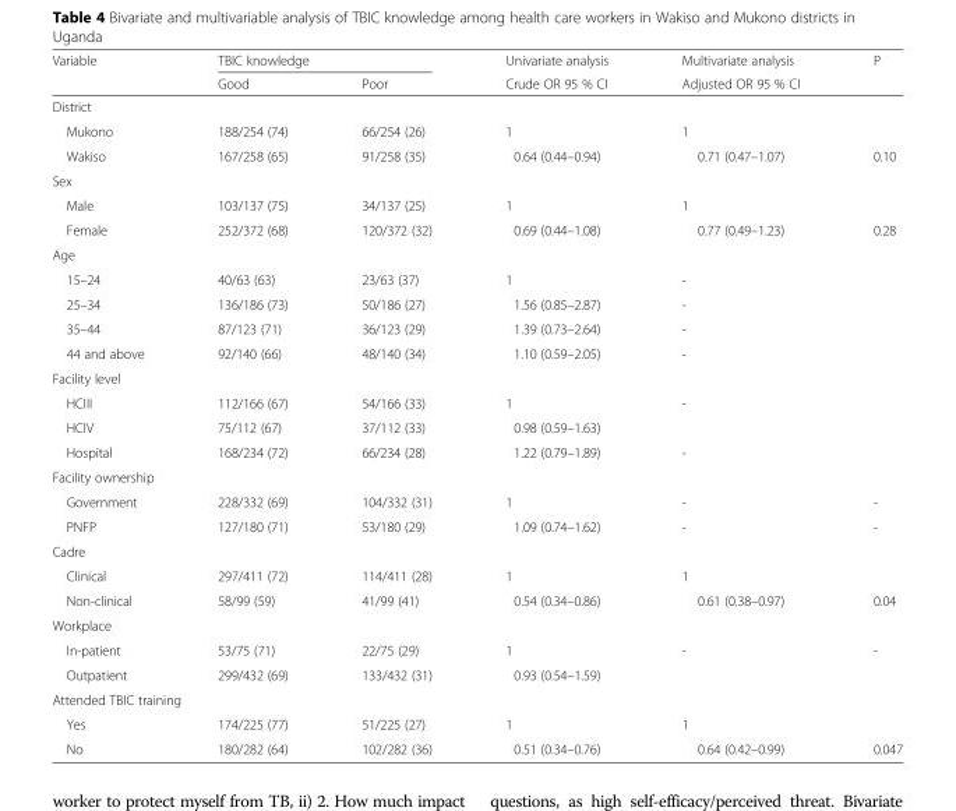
<table><thead><tr><td rowspan="2">Variable</td><td colspan="2">TBIC knowledge</td><td rowspan="2">Univariate analysis Crude OR 95 % CI</td><td rowspan="2">Multivariate analysis Adjusted OR 95 % CI</td><td rowspan="2">P</td></tr><tr><td>Good</td><td>Poor</td></tr></thead><tbody><tr><td colspan="6">District</td></tr><tr><td>Mukono</td><td>188/254 (74)</td><td>66/254 (26)</td><td>1</td><td>1</td><td></td></tr><tr><td>Wakiso</td><td>167/258 (65)</td><td>91/258 (35)</td><td>0.64 (0.44–0.94)</td><td>0.71 (0.47–1.07)</td><td>0.10</td></tr><tr><td colspan="6">Sex</td></tr><tr><td>Male</td><td>103/137 (75)</td><td>34/137 (25)</td><td>1</td><td>1</td><td></td></tr><tr><td>Female</td><td>252/372 (68)</td><td>120/372 (32)</td><td>0.69 (0.44–1.08)</td><td>0.77 (0.49–1.23)</td><td>0.28</td></tr><tr><td colspan="6">Age</td></tr><tr><td>15–24</td><td>40/63 (63)</td><td>23/63 (37)</td><td>1</td><td>-</td><td></td></tr><tr><td>25–34</td><td>136/186 (73)</td><td>50/186 (27)</td><td>1.56 (0.85–2.87)</td><td>-</td><td></td></tr><tr><td>35–44</td><td>87/123 (71)</td><td>36/123 (29)</td><td>1.39 (0.73–2.64)</td><td>-</td><td></td></tr><tr><td>44 and above</td><td>92/140 (66)</td><td>48/140 (34)</td><td>1.10 (0.59–2.05)</td><td>-</td><td></td></tr><tr><td colspan="6">Facility level</td></tr><tr><td>HCIII</td><td>112/166 (67)</td><td>54/166 (33)</td><td>1</td><td>-</td><td></td></tr><tr><td>HCIV</td><td>75/112 (67)</td><td>37/112 (33)</td><td>0.98 (0.59–1.63)</td><td></td><td></td></tr><tr><td>Hospital</td><td>168/234 (72)</td><td>66/234 (28)</td><td>1.22 (0.79–1.89)</td><td>-</td><td></td></tr><tr><td colspan="6">Facility ownership</td></tr><tr><td>Government</td><td>228/332 (69)</td><td>104/332 (31)</td><td>1</td><td>-</td><td>-</td></tr><tr><td>PNFP</td><td>127/180 (71)</td><td>53/180 (29)</td><td>1.09 (0.74–1.62)</td><td>-</td><td>-</td></tr><tr><td colspan="6">Cadre</td></tr><tr><td>Clinical</td><td>297/411 (72)</td><td>114/411 (28)</td><td>1</td><td>1</td><td></td></tr><tr><td>Non-clinical</td><td>58/99 (59)</td><td>41/99 (41)</td><td>0.54 (0.34–0.86)</td><td>0.61 (0.38–0.97)</td><td>0.04</td></tr><tr><td colspan="6">Workplace</td></tr><tr><td>In-patient</td><td>53/75 (71)</td><td>22/75 (29)</td><td>1</td><td>-</td><td>-</td></tr><tr><td>Outpatient</td><td>299/432 (69)</td><td>133/432 (31)</td><td>0.93 (0.54–1.59)</td><td></td><td></td></tr><tr><td colspan="6">Attended TBIC training</td></tr><tr><td>Yes</td><td>174/225 (77)</td><td>51/225 (27)</td><td>1</td><td>1</td><td></td></tr><tr><td>No</td><td>180/282 (64)</td><td>102/282 (36)</td><td>0.51 (0.34–0.76)</td><td>0.64 (0.42–0.99)</td><td>0.047</td></tr></tbody></table>